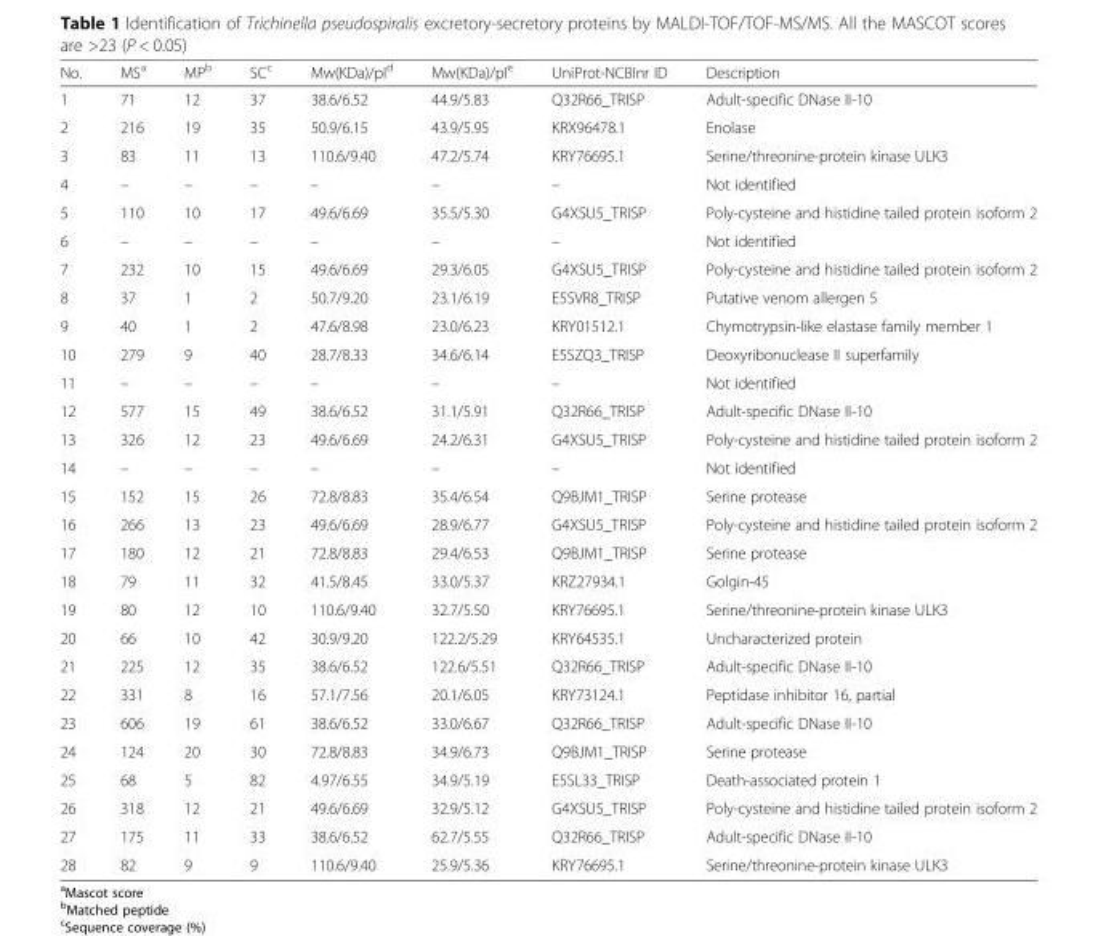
<table><thead><tr><td>No.</td><td>MS<sup>a</sup></td><td>MP<sup>b</sup></td><td>SC<sup>c</sup></td><td>Mw(KDa)/pI<sup>d</sup></td><td>Mw(KDa)/pI<sup>e</sup></td><td>UniProt-NCBInr ID</td><td>Description</td></tr></thead><tbody><tr><td>1</td><td>71</td><td>12</td><td>37</td><td>38.6/6.52</td><td>44.9/5.83</td><td>Q32R66_TRISP</td><td>Adult-specific DNase II-10</td></tr><tr><td>2</td><td>216</td><td>19</td><td>35</td><td>50.9/6.15</td><td>43.9/5.95</td><td>KRX96478.1</td><td>Enolase</td></tr><tr><td>3</td><td>83</td><td>11</td><td>13</td><td>110.6/9.40</td><td>47.2/5.74</td><td>KRY76695.1</td><td>Serine/threonine-protein kinase ULK3</td></tr><tr><td>4</td><td>–</td><td>–</td><td>–</td><td>–</td><td>–</td><td>–</td><td>Not identified</td></tr><tr><td>5</td><td>110</td><td>10</td><td>17</td><td>49.6/6.69</td><td>35.5/5.30</td><td>G4XSU5_TRISP</td><td>Poly-cysteine and histidine tailed protein isoform 2</td></tr><tr><td>6</td><td>–</td><td>–</td><td>–</td><td>–</td><td>–</td><td>–</td><td>Not identified</td></tr><tr><td>7</td><td>232</td><td>10</td><td>15</td><td>49.6/6.69</td><td>29.3/6.05</td><td>G4XSU5_TRISP</td><td>Poly-cysteine and histidine tailed protein isoform 2</td></tr><tr><td>8</td><td>37</td><td>1</td><td>2</td><td>50.7/9.20</td><td>23.1/6.19</td><td>E5SVR8_TRISP</td><td>Putative venom allergen 5</td></tr><tr><td>9</td><td>40</td><td>1</td><td>2</td><td>47.6/8.98</td><td>23.0/6.23</td><td>KRY01512.1</td><td>Chymotrypsin-like elastase family member 1</td></tr><tr><td>10</td><td>279</td><td>9</td><td>40</td><td>28.7/8.33</td><td>34.6/6.14</td><td>E5SZQ3_TRISP</td><td>Deoxyribonuclease II superfamily</td></tr><tr><td>11</td><td>–</td><td>–</td><td>–</td><td>–</td><td>–</td><td>–</td><td>Not identified</td></tr><tr><td>12</td><td>577</td><td>15</td><td>49</td><td>38.6/6.52</td><td>31.1/5.91</td><td>Q32R66_TRISP</td><td>Adult-specific DNase II-10</td></tr><tr><td>13</td><td>326</td><td>12</td><td>23</td><td>49.6/6.69</td><td>24.2/6.31</td><td>G4XSU5_TRISP</td><td>Poly-cysteine and histidine tailed protein isoform 2</td></tr><tr><td>14</td><td>–</td><td>–</td><td>–</td><td>–</td><td>–</td><td>–</td><td>Not identified</td></tr><tr><td>15</td><td>152</td><td>15</td><td>26</td><td>72.8/8.83</td><td>35.4/6.54</td><td>Q9BJM1_TRISP</td><td>Serine protease</td></tr><tr><td>16</td><td>266</td><td>13</td><td>23</td><td>49.6/6.69</td><td>28.9/6.77</td><td>G4XSU5_TRISP</td><td>Poly-cysteine and histidine tailed protein isoform 2</td></tr><tr><td>17</td><td>180</td><td>12</td><td>21</td><td>72.8/8.83</td><td>29.4/6.53</td><td>Q9BJM1_TRISP</td><td>Serine protease</td></tr><tr><td>18</td><td>79</td><td>11</td><td>32</td><td>41.5/8.45</td><td>33.0/5.37</td><td>KRZ27934.1</td><td>Golgin-45</td></tr><tr><td>19</td><td>80</td><td>12</td><td>10</td><td>110.6/9.40</td><td>32.7/5.50</td><td>KRY76695.1</td><td>Serine/threonine-protein kinase ULK3</td></tr><tr><td>20</td><td>66</td><td>10</td><td>42</td><td>30.9/9.20</td><td>122.2/5.29</td><td>KRY64535.1</td><td>Uncharacterized protein</td></tr><tr><td>21</td><td>225</td><td>12</td><td>35</td><td>38.6/6.52</td><td>122.6/5.51</td><td>Q32R66_TRISP</td><td>Adult-specific DNase II-10</td></tr><tr><td>22</td><td>331</td><td>8</td><td>16</td><td>57.1/7.56</td><td>20.1/6.05</td><td>KRY73124.1</td><td>Peptidase inhibitor 16, partial</td></tr><tr><td>23</td><td>606</td><td>19</td><td>61</td><td>38.6/6.52</td><td>33.0/6.67</td><td>Q32R66_TRISP</td><td>Adult-specific DNase II-10</td></tr><tr><td>24</td><td>124</td><td>20</td><td>30</td><td>72.8/8.83</td><td>34.9/6.73</td><td>Q9BJM1_TRISP</td><td>Serine protease</td></tr><tr><td>25</td><td>68</td><td>5</td><td>82</td><td>4.97/6.55</td><td>34.9/5.19</td><td>E5SL33_TRISP</td><td>Death-associated protein 1</td></tr><tr><td>26</td><td>318</td><td>12</td><td>21</td><td>49.6/6.69</td><td>32.9/5.12</td><td>G4XSU5_TRISP</td><td>Poly-cysteine and histidine tailed protein isoform 2</td></tr><tr><td>27</td><td>175</td><td>11</td><td>33</td><td>38.6/6.52</td><td>62.7/5.55</td><td>Q32R66_TRISP</td><td>Adult-specific DNase II-10</td></tr><tr><td>28</td><td>82</td><td>9</td><td>9</td><td>110.6/9.40</td><td>25.9/5.36</td><td>KRY76695.1</td><td>Serine/threonine-protein kinase ULK3</td></tr></tbody></table>